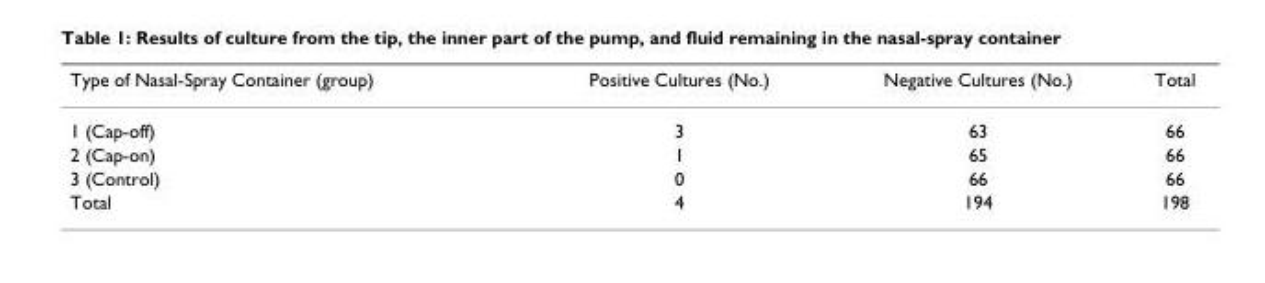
<table><thead><tr><td>Type of Nasal-Spray Container (group)</td><td>Positive Cultures (No.)</td><td>Negative Cultures (No.)</td><td>Total</td></tr></thead><tbody><tr><td>1 (Cap-off)</td><td>3</td><td>63</td><td>66</td></tr><tr><td>2 (Cap-on)</td><td>1</td><td>65</td><td>66</td></tr><tr><td>3 (Control)</td><td>0</td><td>66</td><td>66</td></tr><tr><td>Total</td><td>4</td><td>194</td><td>198</td></tr></tbody></table>